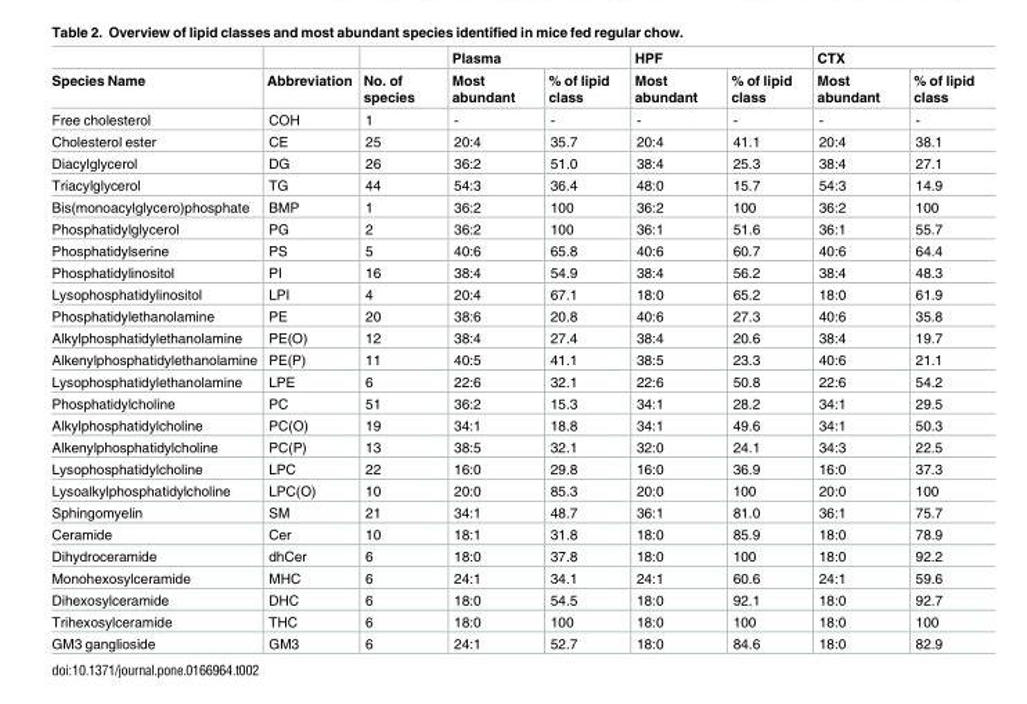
<table><thead><tr><td rowspan="2">Species Name</td><td rowspan="2">Abbreviation</td><td rowspan="2">No. of species</td><td colspan="2">Plasma</td><td colspan="2">HPF</td><td colspan="2">CTX</td></tr><tr><td>Most abundant</td><td>% of lipid class</td><td>Most abundant</td><td>% of lipid class</td><td>Most abundant</td><td>% of lipid class</td></tr></thead><tbody><tr><td>Free cholesterol</td><td>COH</td><td>1</td><td>-</td><td>-</td><td>-</td><td>-</td><td>-</td><td>-</td></tr><tr><td>Cholesterol ester</td><td>CE</td><td>25</td><td>20:4</td><td>35.7</td><td>20:4</td><td>41.1</td><td>20:4</td><td>38.1</td></tr><tr><td>Diacylglycerol</td><td>DG</td><td>26</td><td>36:2</td><td>51.0</td><td>38:4</td><td>25.3</td><td>38:4</td><td>27.1</td></tr><tr><td>Triacylglycerol</td><td>TG</td><td>44</td><td>54:3</td><td>36.4</td><td>48:0</td><td>15.7</td><td>54:3</td><td>14.9</td></tr><tr><td>Bis(monoacylglycero)phosphate</td><td>BMP</td><td>1</td><td>36:2</td><td>100</td><td>36:2</td><td>100</td><td>36:2</td><td>100</td></tr><tr><td>Phosphatidylglycerol</td><td>PG</td><td>2</td><td>36:2</td><td>100</td><td>36:1</td><td>51.6</td><td>36:1</td><td>55.7</td></tr><tr><td>Phosphatidylserine</td><td>PS</td><td>5</td><td>40:6</td><td>65.8</td><td>40:6</td><td>60.7</td><td>40:6</td><td>64.4</td></tr><tr><td>Phosphatidylinositol</td><td>PI</td><td>16</td><td>38:4</td><td>54.9</td><td>38:4</td><td>56.2</td><td>38:4</td><td>48.3</td></tr><tr><td>Lysophosphatidylinositol</td><td>LPI</td><td>4</td><td>20:4</td><td>67.1</td><td>18:0</td><td>65.2</td><td>18:0</td><td>61.9</td></tr><tr><td>Phosphatidylethanolamine</td><td>PE</td><td>20</td><td>38:6</td><td>20.8</td><td>40:6</td><td>27.3</td><td>40:6</td><td>35.8</td></tr><tr><td>Alkylphosphatidylethanolamine</td><td>PE(O)</td><td>12</td><td>38:4</td><td>27.4</td><td>38:4</td><td>20.6</td><td>38:4</td><td>19.7</td></tr><tr><td>Alkenylphosphatidylethanolamine</td><td>PE(P)</td><td>11</td><td>40:5</td><td>41.1</td><td>38:5</td><td>23.3</td><td>40:6</td><td>21.1</td></tr><tr><td>Lysophosphatidylethanolamine</td><td>LPE</td><td>6</td><td>22:6</td><td>32.1</td><td>22:6</td><td>50.8</td><td>22:6</td><td>54.2</td></tr><tr><td>Phosphatidylcholine</td><td>PC</td><td>51</td><td>36:2</td><td>15.3</td><td>34:1</td><td>28.2</td><td>34:1</td><td>29.5</td></tr><tr><td>Alkylphosphatidylcholine</td><td>PC(O)</td><td>19</td><td>34:1</td><td>18.8</td><td>34:1</td><td>49.6</td><td>34:1</td><td>50.3</td></tr><tr><td>Alkenylphosphatidylcholine</td><td>PC(P)</td><td>13</td><td>38:5</td><td>32.1</td><td>32:0</td><td>24.1</td><td>34:3</td><td>22.5</td></tr><tr><td>Lysophosphatidylcholine</td><td>LPC</td><td>22</td><td>16:0</td><td>29.8</td><td>16:0</td><td>36.9</td><td>16:0</td><td>37.3</td></tr><tr><td>Lysoalkylphosphatidylcholine</td><td>LPC(O)</td><td>10</td><td>20:0</td><td>85.3</td><td>20:0</td><td>100</td><td>20:0</td><td>100</td></tr><tr><td>Sphingomyelin</td><td>SM</td><td>21</td><td>34:1</td><td>48.7</td><td>36:1</td><td>81.0</td><td>36:1</td><td>75.7</td></tr><tr><td>Ceramide</td><td>Cer</td><td>10</td><td>18:1</td><td>31.8</td><td>18:0</td><td>85.9</td><td>18:0</td><td>78.9</td></tr><tr><td>Dihydroceramide</td><td>dhCer</td><td>6</td><td>18:0</td><td>37.8</td><td>18:0</td><td>100</td><td>18:0</td><td>92.2</td></tr><tr><td>Monohexosylceramide</td><td>MHC</td><td>6</td><td>24:1</td><td>34.1</td><td>24:1</td><td>60.6</td><td>24:1</td><td>59.6</td></tr><tr><td>Dihexosylceramide</td><td>DHC</td><td>6</td><td>18:0</td><td>54.5</td><td>18:0</td><td>92.1</td><td>18:0</td><td>92.7</td></tr><tr><td>Trihexosylceramide</td><td>THC</td><td>6</td><td>18:0</td><td>100</td><td>18:0</td><td>100</td><td>18:0</td><td>100</td></tr><tr><td>GM3 ganglioside</td><td>GM3</td><td>6</td><td>24:1</td><td>52.7</td><td>18:0</td><td>84.6</td><td>18:0</td><td>82.9</td></tr></tbody></table>